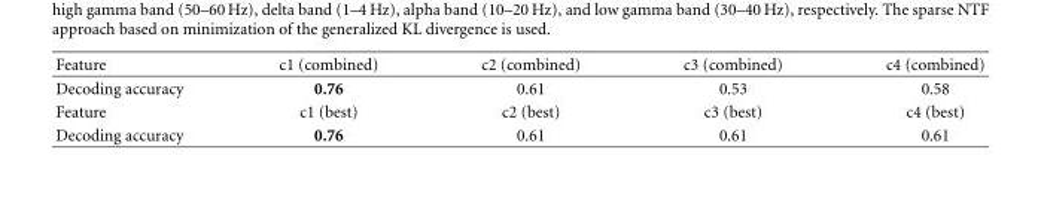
<table><thead><tr><td>Feature</td><td>c1 (combined)</td><td>c2 (combined)</td><td>c3 (combined)</td><td>c4 (combined)</td></tr></thead><tbody><tr><td>Decoding accuracy</td><td>0.76</td><td>0.61</td><td>0.53</td><td>0.58</td></tr><tr><td>Feature</td><td>c1 (best)</td><td>c2 (best)</td><td>c3 (best)</td><td>c4 (best)</td></tr><tr><td>Decoding accuracy</td><td>0.76</td><td>0.61</td><td>0.61</td><td>0.61</td></tr></tbody></table>